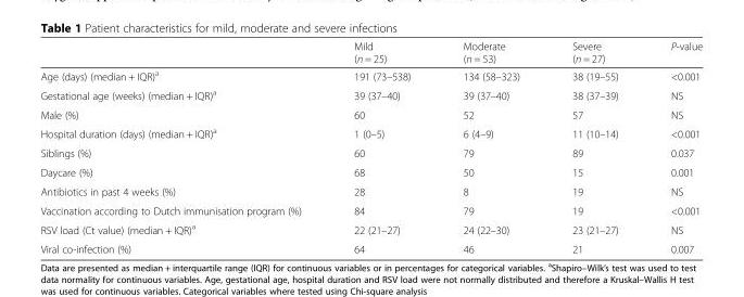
<table><thead><tr><td></td><td>Mild (n = 25)</td><td>Moderate (n = 53)</td><td>Severe (n = 27)</td><td>P-value</td></tr></thead><tbody><tr><td>Age (days) (median + IQR)<sup>a</sup></td><td>191 (73–538)</td><td>134 (58–323)</td><td>38 (19–55)</td><td>&lt;0.001</td></tr><tr><td>Gestational age (weeks) (median + IQR)<sup>a</sup></td><td>39 (37–40)</td><td>39 (37–40)</td><td>38 (37–39)</td><td>NS</td></tr><tr><td>Male (%)</td><td>60</td><td>52</td><td>57</td><td>NS</td></tr><tr><td>Hospital duration (days) (median + IQR)<sup>a</sup></td><td>1 (0–5)</td><td>6 (4–9)</td><td>11 (10–14)</td><td>&lt;0.001</td></tr><tr><td>Siblings (%)</td><td>60</td><td>79</td><td>89</td><td>0.037</td></tr><tr><td>Daycare (%)</td><td>68</td><td>50</td><td>15</td><td>0.001</td></tr><tr><td>Antibiotics in past 4 weeks (%)</td><td>28</td><td>8</td><td>19</td><td>NS</td></tr><tr><td>Vaccination according to Dutch immunisation program (%)</td><td>84</td><td>79</td><td>19</td><td>&lt;0.001</td></tr><tr><td>RSV load (Ct value) (median + IQR)<sup>a</sup></td><td>22 (21–27)</td><td>24 (22–30)</td><td>23 (21–27)</td><td>NS</td></tr><tr><td>Viral co-infection (%)</td><td>64</td><td>46</td><td>21</td><td>0.007</td></tr></tbody></table>